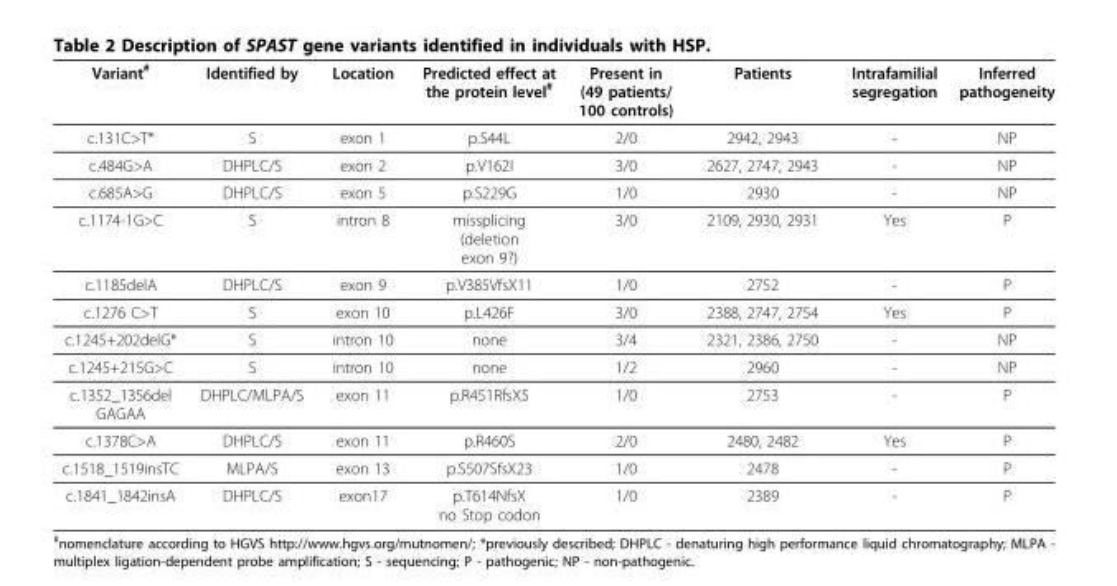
<table><thead><tr><td>Variant<sup>#</sup></td><td>Identified by</td><td>Location</td><td>Predicted effect at the protein level<sup>#</sup></td><td>Present in (49 patients/ 100 controls)</td><td>Patients</td><td>Intrafamilial segregation</td><td>Inferred pathogeneity</td></tr></thead><tbody><tr><td>c.131C&gt;T*</td><td>S</td><td>exon 1</td><td>p.S44L</td><td>2/0</td><td>2942, 2943</td><td>-</td><td>NP</td></tr><tr><td>c.484G&gt;A</td><td>DHPLC/S</td><td>exon 2</td><td>p.V162I</td><td>3/0</td><td>2627, 2747, 2943</td><td>-</td><td>NP</td></tr><tr><td>c.685A&gt;G</td><td>DHPLC/S</td><td>exon 5</td><td>p.S229G</td><td>1/0</td><td>2930</td><td>-</td><td>NP</td></tr><tr><td>c.1174-1G&gt;C</td><td>S</td><td>intron 8</td><td>missplicing (deletion exon 9?)</td><td>3/0</td><td>2109, 2930, 2931</td><td>Yes</td><td>P</td></tr><tr><td>c.1185delA</td><td>DHPLC/S</td><td>exon 9</td><td>p.V385VfsX11</td><td>1/0</td><td>2752</td><td>-</td><td>P</td></tr><tr><td>c.1276 C&gt;T</td><td>S</td><td>exon 10</td><td>p.L426F</td><td>3/0</td><td>2388, 2747, 2754</td><td>Yes</td><td>P</td></tr><tr><td>c.1245+202delG*</td><td>S</td><td>intron 10</td><td>none</td><td>3/4</td><td>2321, 2386, 2750</td><td>-</td><td>NP</td></tr><tr><td>c.1245+215G&gt;C</td><td>S</td><td>intron 10</td><td>none</td><td>1/2</td><td>2960</td><td>-</td><td>NP</td></tr><tr><td>c.1352_1356del GAGAA</td><td>DHPLC/MLPA/S</td><td>exon 11</td><td>p.R451RfsX5</td><td>1/0</td><td>2753</td><td>-</td><td>P</td></tr><tr><td>c.1378C&gt;A</td><td>DHPLC/S</td><td>exon 11</td><td>p.R460S</td><td>2/0</td><td>2480, 2482</td><td>Yes</td><td>P</td></tr><tr><td>c.1518_1519insTC</td><td>MLPA/S</td><td>exon 13</td><td>p.S507SfsX23</td><td>1/0</td><td>2478</td><td>-</td><td>P</td></tr><tr><td>c.1841_1842insA</td><td>DHPLC/S</td><td>exon17</td><td>p.T614NfsX no Stop codon</td><td>1/0</td><td>2389</td><td>-</td><td>P</td></tr></tbody></table>